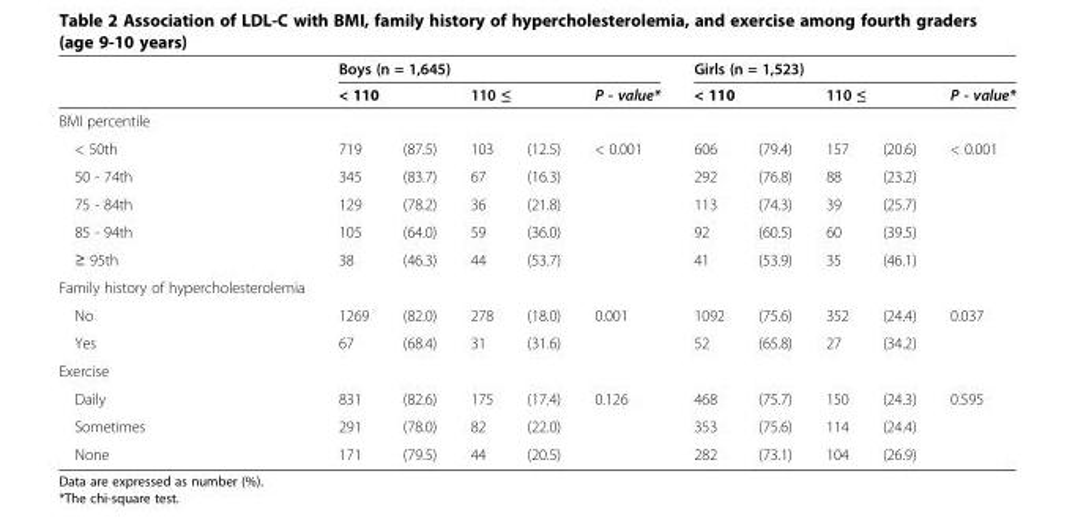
<table><thead><tr><td rowspan="3">BMI percentile</td><td colspan="5">Boys (n = 1,645)</td><td colspan="5">Girls (n = 1,523)</td></tr><tr><td colspan="2">&lt; 110</td><td colspan="2">110 ≤</td><td rowspan="2">P - value*</td><td colspan="2">&lt; 110</td><td colspan="2">110 ≤</td><td rowspan="2">P - value*</td></tr><tr><td></td><td></td><td></td><td></td><td></td><td></td><td></td><td></td></tr></thead><tbody><tr><td>&lt; 50th</td><td>719</td><td>(87.5)</td><td>103</td><td>(12.5)</td><td>&lt; 0.001</td><td>606</td><td>(79.4)</td><td>157</td><td>(20.6)</td><td>&lt; 0.001</td></tr><tr><td>50 - 74th</td><td>345</td><td>(83.7)</td><td>67</td><td>(16.3)</td><td></td><td>292</td><td>(76.8)</td><td>88</td><td>(23.2)</td><td></td></tr><tr><td>75 - 84th</td><td>129</td><td>(78.2)</td><td>36</td><td>(21.8)</td><td></td><td>113</td><td>(74.3)</td><td>39</td><td>(25.7)</td><td></td></tr><tr><td>85 - 94th</td><td>105</td><td>(64.0)</td><td>59</td><td>(36.0)</td><td></td><td>92</td><td>(60.5)</td><td>60</td><td>(39.5)</td><td></td></tr><tr><td>≥ 95th</td><td>38</td><td>(46.3)</td><td>44</td><td>(53.7)</td><td></td><td>41</td><td>(53.9)</td><td>35</td><td>(46.1)</td><td></td></tr><tr><td colspan="11">Family history of hypercholesterolemia</td></tr><tr><td>No</td><td>1269</td><td>(82.0)</td><td>278</td><td>(18.0)</td><td>0.001</td><td>1092</td><td>(75.6)</td><td>352</td><td>(24.4)</td><td>0.037</td></tr><tr><td>Yes</td><td>67</td><td>(68.4)</td><td>31</td><td>(31.6)</td><td></td><td>52</td><td>(65.8)</td><td>27</td><td>(34.2)</td><td></td></tr><tr><td colspan="11">Exercise</td></tr><tr><td>Daily</td><td>831</td><td>(82.6)</td><td>175</td><td>(17.4)</td><td>0.126</td><td>468</td><td>(75.7)</td><td>150</td><td>(24.3)</td><td>0.595</td></tr><tr><td>Sometimes</td><td>291</td><td>(78.0)</td><td>82</td><td>(22.0)</td><td></td><td>353</td><td>(75.6)</td><td>114</td><td>(24.4)</td><td></td></tr><tr><td>None</td><td>171</td><td>(79.5)</td><td>44</td><td>(20.5)</td><td></td><td>282</td><td>(73.1)</td><td>104</td><td>(26.9)</td><td></td></tr></tbody></table>